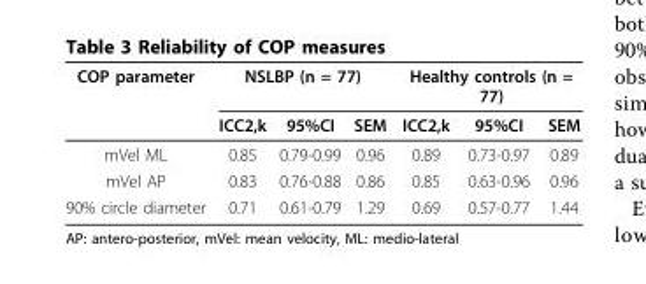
<table><thead><tr><td rowspan="2">COP parameter</td><td colspan="3">NSLBP (n = 77)</td><td colspan="3">Healthy controls (n = 77)</td></tr><tr><td>ICC2,k</td><td>95%CI</td><td>SEM</td><td>ICC2,k</td><td>95%CI</td><td>SEM</td></tr></thead><tbody><tr><td>mVel ML</td><td>0.85</td><td>0.79-0.99</td><td>0.96</td><td>0.89</td><td>0.73-0.97</td><td>0.89</td></tr><tr><td>mVel AP</td><td>0.83</td><td>0.76-0.88</td><td>0.86</td><td>0.85</td><td>0.63-0.96</td><td>0.96</td></tr><tr><td>90% circle diameter</td><td>0.71</td><td>0.61-0.79</td><td>1.29</td><td>0.69</td><td>0.57-0.77</td><td>1.44</td></tr></tbody></table>